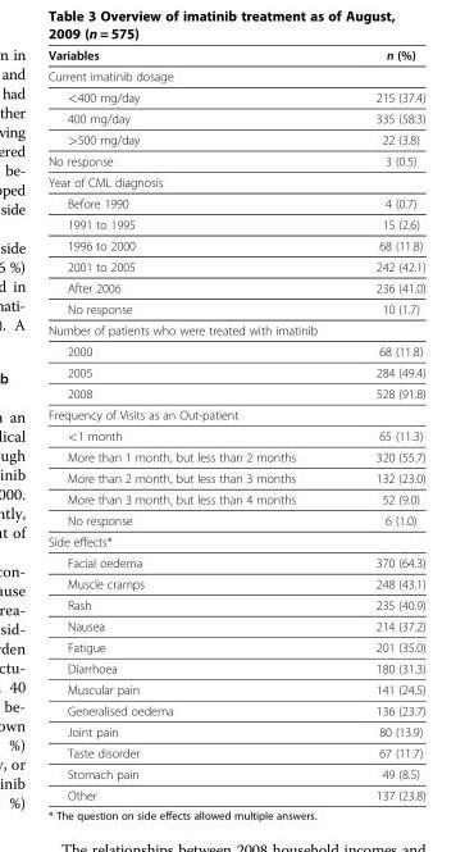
<table><thead><tr><td>Variables</td><td>n (%)</td></tr></thead><tbody><tr><td colspan="2">Current imatinib dosage</td></tr><tr><td>&lt;400 mg/day</td><td>215 (37.4)</td></tr><tr><td>400 mg/day</td><td>335 (58.3)</td></tr><tr><td>&gt;500 mg/day</td><td>22 (3.8)</td></tr><tr><td>No response</td><td>3 (0.5)</td></tr><tr><td colspan="2">Year of CML diagnosis</td></tr><tr><td>Before 1990</td><td>4 (0.7)</td></tr><tr><td>1991 to 1995</td><td>15 (2.6)</td></tr><tr><td>1996 to 2000</td><td>68 (11.8)</td></tr><tr><td>2001 to 2005</td><td>242 (42.1)</td></tr><tr><td>After 2006</td><td>236 (41.0)</td></tr><tr><td>No response</td><td>10 (1.7)</td></tr><tr><td colspan="2">Number of patients who were treated with imatinib</td></tr><tr><td>2000</td><td>68 (11.8)</td></tr><tr><td>2005</td><td>284 (49.4)</td></tr><tr><td>2008</td><td>528 (91.8)</td></tr><tr><td colspan="2">Frequency of Visits as an Out-patient</td></tr><tr><td>&lt;1 month</td><td>65 (11.3)</td></tr><tr><td>More than 1 month, but less than 2 months</td><td>320 (55.7)</td></tr><tr><td>More than 2 month, but less than 3 months</td><td>132 (23.0)</td></tr><tr><td>More than 3 month, but less than 4 months</td><td>52 (9.0)</td></tr><tr><td>No response</td><td>6 (1.0)</td></tr><tr><td colspan="2">Side effects*</td></tr><tr><td>Facial oedema</td><td>370 (64.3)</td></tr><tr><td>Muscle cramps</td><td>248 (43.1)</td></tr><tr><td>Rash</td><td>235 (40.9)</td></tr><tr><td>Nausea</td><td>214 (37.2)</td></tr><tr><td>Fatigue</td><td>201 (35.0)</td></tr><tr><td>Diarrhoea</td><td>180 (31.3)</td></tr><tr><td>Muscular pain</td><td>141 (24.5)</td></tr><tr><td>Generalised oedema</td><td>136 (23.7)</td></tr><tr><td>Joint pain</td><td>80 (13.9)</td></tr><tr><td>Taste disorder</td><td>67 (11.7)</td></tr><tr><td>Stomach pain</td><td>49 (8.5)</td></tr><tr><td>Other</td><td>137 (23.8)</td></tr></tbody></table>